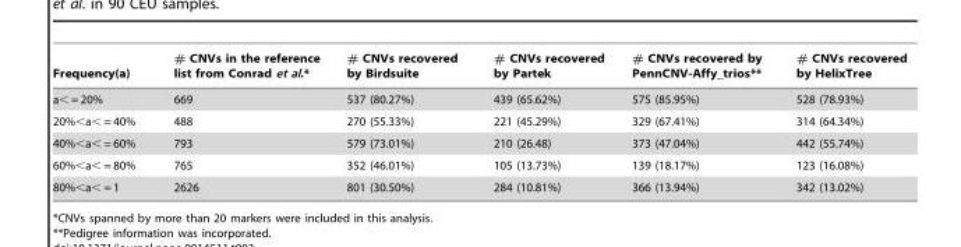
<table><thead><tr><td>Frequency(a)</td><td># CNVs in the reference list from Conrad et al.*</td><td># CNVs recovered by Birdsuite</td><td># CNVs recovered by Partek</td><td># CNVs recovered by PennCNV-Affy_trios**</td><td># CNVs recovered by HelixTree</td></tr></thead><tbody><tr><td>a&lt; = 20%</td><td>669</td><td>537 (80.27%)</td><td>439 (65.62%)</td><td>575 (85.95%)</td><td>528 (78.93%)</td></tr><tr><td>20%&lt;a&lt; = 40%</td><td>488</td><td>270 (55.33%)</td><td>221 (45.29%)</td><td>329 (67.41%)</td><td>314 (64.34%)</td></tr><tr><td>40%&lt;a&lt; = 60%</td><td>793</td><td>579 (73.01%)</td><td>210 (26.48)</td><td>373 (47.04%)</td><td>442 (55.74%)</td></tr><tr><td>60%&lt;a&lt; = 80%</td><td>765</td><td>352 (46.01%)</td><td>105 (13.73%)</td><td>139 (18.17%)</td><td>123 (16.08%)</td></tr><tr><td>80%&lt;a&lt; = 1</td><td>2626</td><td>801 (30.50%)</td><td>284 (10.81%)</td><td>366 (13.94%)</td><td>342 (13.02%)</td></tr></tbody></table>